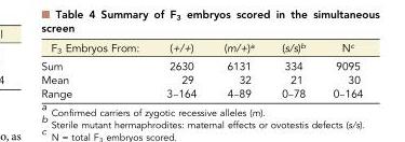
<table><thead><tr><td>F<sub>3</sub> Embryos From:</td><td>(+/+)</td><td>(m/+)<sup>a</sup></td><td>(s/s)<sup>b</sup></td><td>N<sup>c</sup></td></tr></thead><tbody><tr><td>Sum</td><td>2630</td><td>6131</td><td>334</td><td>9095</td></tr><tr><td>Mean</td><td>29</td><td>32</td><td>21</td><td>30</td></tr><tr><td>Range</td><td>3–164</td><td>4–89</td><td>0–78</td><td>0–164</td></tr></tbody></table>